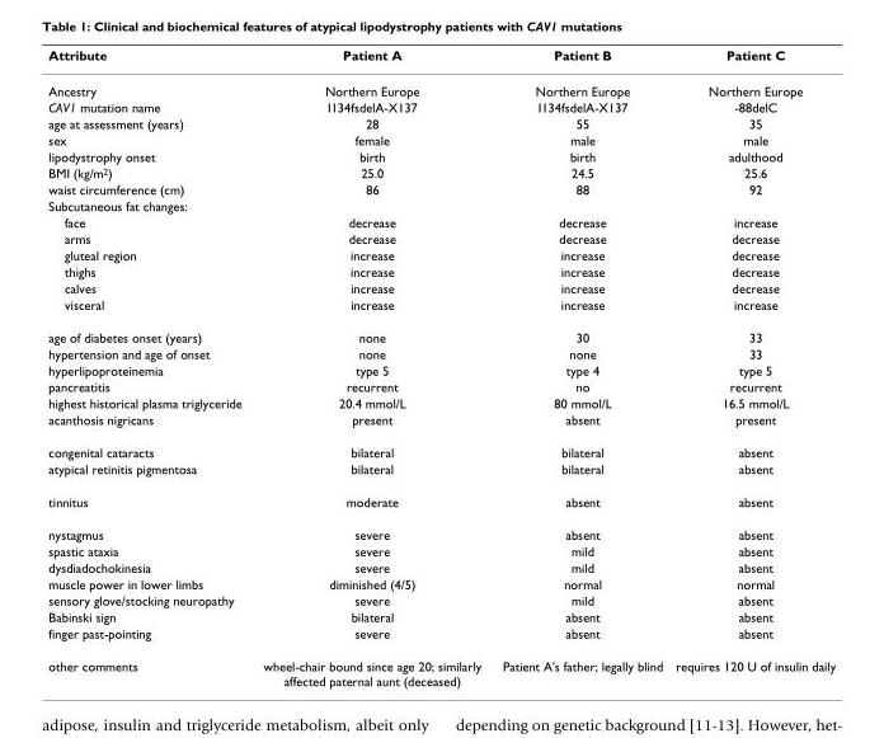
<table><thead><tr><td>Attribute</td><td>Patient A</td><td>Patient B</td><td>Patient C</td></tr></thead><tbody><tr><td>Ancestry</td><td>Northern Europe</td><td>Northern Europe</td><td>Northern Europe</td></tr><tr><td>CAV1 mutation name</td><td>I134fsdelA-X137</td><td>I134fsdelA-X137</td><td>-88delC</td></tr><tr><td>age at assessment (years)</td><td>28</td><td>55</td><td>35</td></tr><tr><td>sex</td><td>female</td><td>male</td><td>male</td></tr><tr><td>lipodystrophy onset</td><td>birth</td><td>birth</td><td>adulthood</td></tr><tr><td>BMI (kg/m<sup>2</sup>)</td><td>25.0</td><td>24.5</td><td>25.6</td></tr><tr><td>waist circumference (cm)</td><td>86</td><td>88</td><td>92</td></tr><tr><td colspan="4">Subcutaneous fat changes:</td></tr><tr><td>face</td><td>decrease</td><td>decrease</td><td>increase</td></tr><tr><td>arms</td><td>decrease</td><td>decrease</td><td>decrease</td></tr><tr><td>gluteal region</td><td>increase</td><td>increase</td><td>decrease</td></tr><tr><td>thighs</td><td>increase</td><td>increase</td><td>decrease</td></tr><tr><td>calves</td><td>increase</td><td>increase</td><td>decrease</td></tr><tr><td>visceral</td><td>increase</td><td>increase</td><td>increase</td></tr><tr><td>age of diabetes onset (years)</td><td>none</td><td>30</td><td>33</td></tr><tr><td>hypertension and age of onset</td><td>none</td><td>none</td><td>33</td></tr><tr><td>hyperlipoproteinemia</td><td>type 5</td><td>type 4</td><td>type 5</td></tr><tr><td>pancreatitis</td><td>recurrent</td><td>no</td><td>recurrent</td></tr><tr><td>highest historical plasma triglyceride</td><td>20.4 mmol/L</td><td>80 mmol/L</td><td>16.5 mmol/L</td></tr><tr><td>acanthosis nigricans</td><td>present</td><td>absent</td><td>present</td></tr><tr><td>congenital cataracts</td><td>bilateral</td><td>bilateral</td><td>absent</td></tr><tr><td>atypical retinitis pigmentosa</td><td>bilateral</td><td>bilateral</td><td>absent</td></tr><tr><td>tinnitus</td><td>moderate</td><td>absent</td><td>absent</td></tr><tr><td>nystagmus</td><td>severe</td><td>absent</td><td>absent</td></tr><tr><td>spastic ataxia</td><td>severe</td><td>mild</td><td>absent</td></tr><tr><td>dysdiadochokinesia</td><td>severe</td><td>mild</td><td>absent</td></tr><tr><td>muscle power in lower limbs</td><td>diminished (4/5)</td><td>normal</td><td>normal</td></tr><tr><td>sensory glove/stocking neuropathy</td><td>severe</td><td>mild</td><td>absent</td></tr><tr><td>Babinski sign</td><td>bilateral</td><td>absent</td><td>absent</td></tr><tr><td>finger past-pointing</td><td>severe</td><td>absent</td><td>absent</td></tr><tr><td>other comments</td><td>wheel-chair bound since age 20; similarly affected paternal aunt (deceased)</td><td>Patient A&#x27;s father; legally blind</td><td>requires 120 U of insulin daily</td></tr></tbody></table>